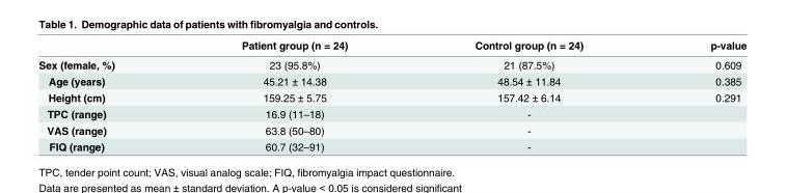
<table><thead><tr><td></td><td>Patient group (n = 24)</td><td>Control group (n = 24)</td><td>p-value</td></tr></thead><tbody><tr><td>Sex (female, %)</td><td>23 (95.8%)</td><td>21 (87.5%)</td><td>0.609</td></tr><tr><td>Age (years)</td><td>45.21 ± 14.38</td><td>48.54 ± 11.84</td><td>0.385</td></tr><tr><td>Height (cm)</td><td>159.25 ± 5.75</td><td>157.42 ± 6.14</td><td>0.291</td></tr><tr><td>TPC (range)</td><td>16.9 (11–18)</td><td>-</td><td></td></tr><tr><td>VAS (range)</td><td>63.8 (50–80)</td><td>-</td><td></td></tr><tr><td>FIQ (range)</td><td>60.7 (32–91)</td><td>-</td><td></td></tr></tbody></table>